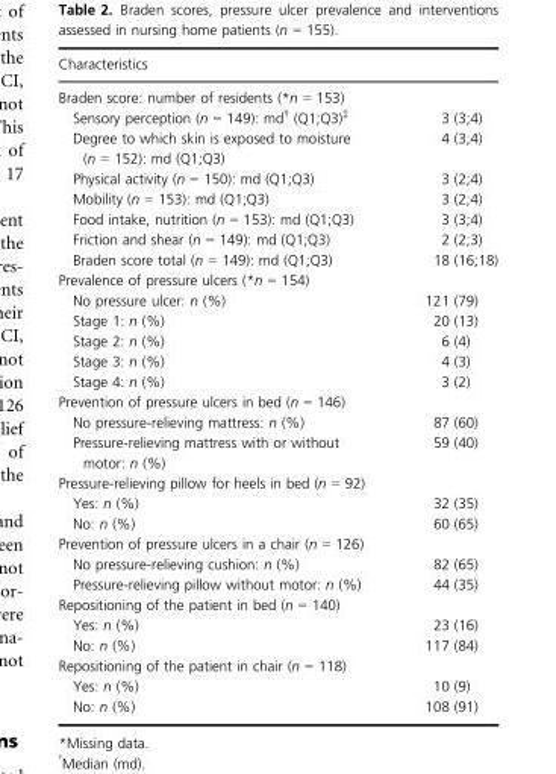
<table><thead><tr><td>Characteristics</td><td></td></tr></thead><tbody><tr><td colspan="2">Braden score: number of residents (*n = 153)</td></tr><tr><td>Sensory perception (n = 149): md† (Q1;Q3)‡</td><td>3 (3;4)</td></tr><tr><td>Degree to which skin is exposed to moisture (n = 152): md (Q1;Q3)</td><td>4 (3;4)</td></tr><tr><td>Physical activity (n = 150): md (Q1;Q3)</td><td>3 (2;4)</td></tr><tr><td>Mobility (n = 153): md (Q1;Q3)</td><td>3 (2;4)</td></tr><tr><td>Food intake, nutrition (n = 153): md (Q1;Q3)</td><td>3 (3;4)</td></tr><tr><td>Friction and shear (n = 149): md (Q1;Q3)</td><td>2 (2;3)</td></tr><tr><td>Braden score total (n = 149): md (Q1;Q3)</td><td>18 (16;18)</td></tr><tr><td colspan="2">Prevalence of pressure ulcers (*n = 154)</td></tr><tr><td>No pressure ulcer: n (%)</td><td>121 (79)</td></tr><tr><td>Stage 1: n (%)</td><td>20 (13)</td></tr><tr><td>Stage 2: n (%)</td><td>6 (4)</td></tr><tr><td>Stage 3: n (%)</td><td>4 (3)</td></tr><tr><td>Stage 4: n (%)</td><td>3 (2)</td></tr><tr><td colspan="2">Prevention of pressure ulcers in bed (n = 146)</td></tr><tr><td>No pressure-relieving mattress: n (%)</td><td>87 (60)</td></tr><tr><td>Pressure-relieving mattress with or without motor: n (%)</td><td>59 (40)</td></tr><tr><td colspan="2">Pressure-relieving pillow for heels in bed (n = 92)</td></tr><tr><td>Yes: n (%)</td><td>32 (35)</td></tr><tr><td>No: n (%)</td><td>60 (65)</td></tr><tr><td colspan="2">Prevention of pressure ulcers in a chair (n = 126)</td></tr><tr><td>No pressure-relieving cushion: n (%)</td><td>82 (65)</td></tr><tr><td>Pressure-relieving pillow without motor: n (%)</td><td>44 (35)</td></tr><tr><td colspan="2">Repositioning of the patient in bed (n = 140)</td></tr><tr><td>Yes: n (%)</td><td>23 (16)</td></tr><tr><td>No: n (%)</td><td>117 (84)</td></tr><tr><td colspan="2">Repositioning of the patient in chair (n = 118)</td></tr><tr><td>Yes: n (%)</td><td>10 (9)</td></tr><tr><td>No: n (%)</td><td>108 (91)</td></tr></tbody></table>